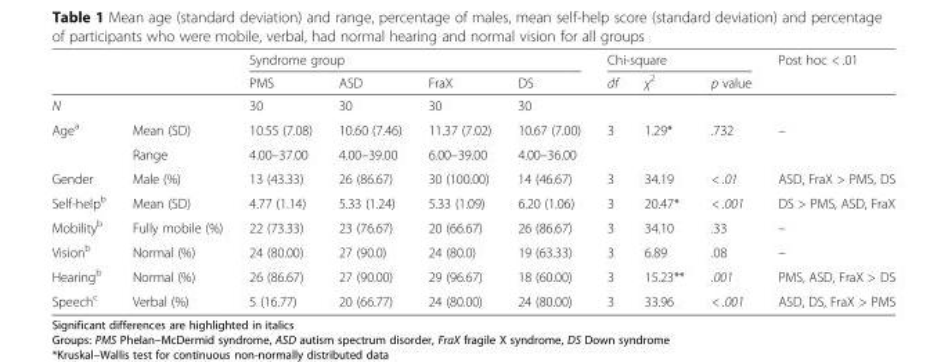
<table><thead><tr><td rowspan="2"></td><td rowspan="2"></td><td colspan="4">Syndrome group</td><td colspan="3">Chi-square</td><td rowspan="2">Post hoc &lt; .01</td></tr><tr><td>PMS</td><td>ASD</td><td>FraX</td><td>DS</td><td>df</td><td>χ<sup>2</sup></td><td>p value</td></tr></thead><tbody><tr><td>N</td><td></td><td>30</td><td>30</td><td>30</td><td>30</td><td></td><td></td><td></td><td></td></tr><tr><td rowspan="2">Age<sup>a</sup></td><td>Mean (SD)</td><td>10.55 (7.08)</td><td>10.60 (7.46)</td><td>11.37 (7.02)</td><td>10.67 (7.00)</td><td>3</td><td>1.29*</td><td>.732</td><td>–</td></tr><tr><td>Range</td><td>4.00–37.00</td><td>4.00–39.00</td><td>6.00–39.00</td><td>4.00–36.00</td><td></td><td></td><td></td><td></td></tr><tr><td>Gender</td><td>Male (%)</td><td>13 (43.33)</td><td>26 (86.67)</td><td>30 (100.00)</td><td>14 (46.67)</td><td>3</td><td>34.19</td><td>&lt; .01</td><td>ASD, FraX &gt; PMS, DS</td></tr><tr><td>Self-help<sup>b</sup></td><td>Mean (SD)</td><td>4.77 (1.14)</td><td>5.33 (1.24)</td><td>5.33 (1.09)</td><td>6.20 (1.06)</td><td>3</td><td>20.47*</td><td>&lt; .001</td><td>DS &gt; PMS, ASD, FraX</td></tr><tr><td>Mobility<sup>b</sup></td><td>Fully mobile (%)</td><td>22 (73.33)</td><td>23 (76.67)</td><td>20 (66.67)</td><td>26 (86.67)</td><td>3</td><td>34.10</td><td>.33</td><td>–</td></tr><tr><td>Vision<sup>b</sup></td><td>Normal (%)</td><td>24 (80.00)</td><td>27 (90.0)</td><td>24 (80.0)</td><td>19 (63.33)</td><td>3</td><td>6.89</td><td>.08</td><td>–</td></tr><tr><td>Hearing<sup>b</sup></td><td>Normal (%)</td><td>26 (86.67)</td><td>27 (90.00)</td><td>29 (96.67)</td><td>18 (60.00)</td><td>3</td><td>15.23**</td><td>.001</td><td>PMS, ASD, FraX &gt; DS</td></tr><tr><td>Speech<sup>c</sup></td><td>Verbal (%)</td><td>5 (16.77)</td><td>20 (66.77)</td><td>24 (80.00)</td><td>24 (80.00)</td><td>3</td><td>33.96</td><td>&lt; .001</td><td>ASD, DS, FraX &gt; PMS</td></tr></tbody></table>